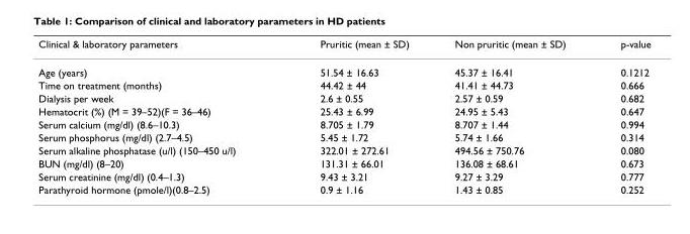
<table><thead><tr><td>Clinical &amp; laboratory parameters</td><td>Pruritic (mean ± SD)</td><td>Non pruritic (mean ± SD)</td><td>p-value</td></tr></thead><tbody><tr><td>Age (years)</td><td>51.54 ± 16.63</td><td>45.37 ± 16.41</td><td>0.1212</td></tr><tr><td>Time on treatment (months)</td><td>44.42 ± 44</td><td>41.41 ± 44.73</td><td>0.666</td></tr><tr><td>Dialysis per week</td><td>2.6 ± 0.55</td><td>2.57 ± 0.59</td><td>0.682</td></tr><tr><td>Hematocrit (%) (M = 39–52)(F = 36–46)</td><td>25.43 ± 6.99</td><td>24.95 ± 5.43</td><td>0.647</td></tr><tr><td>Serum calcium (mg/dl) (8.6–10.3)</td><td>8.705 ± 1.79</td><td>8.707 ± 1.44</td><td>0.994</td></tr><tr><td>Serum phosphorus (mg/dl) (2.7–4.5)</td><td>5.45 ± 1.72</td><td>5.74 ± 1.66</td><td>0.314</td></tr><tr><td>Serum alkaline phosphatase (u/l) (150–450 u/l)</td><td>322.01 ± 272.61</td><td>494.56 ± 750.76</td><td>0.080</td></tr><tr><td>BUN (mg/dl) (8–20)</td><td>131.31 ± 66.01</td><td>136.08 ± 68.61</td><td>0.673</td></tr><tr><td>Serum creatinine (mg/dl) (0.4–1.3)</td><td>9.43 ± 3.21</td><td>9.27 ± 3.29</td><td>0.777</td></tr><tr><td>Parathyroid hormone (pmole/l)(0.8–2.5)</td><td>0.9 ± 1.16</td><td>1.43 ± 0.85</td><td>0.252</td></tr></tbody></table>